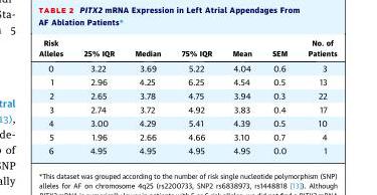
<table><thead><tr><td>Risk Alleles</td><td>25% IQR</td><td>Median</td><td>75% IQR</td><td>Mean</td><td>SEM</td><td>No. of Patients</td></tr></thead><tbody><tr><td>0</td><td>3.22</td><td>3.69</td><td>5.22</td><td>4.04</td><td>0.6</td><td>3</td></tr><tr><td>1</td><td>2.96</td><td>4.25</td><td>6.25</td><td>4.54</td><td>0.5</td><td>13</td></tr><tr><td>2</td><td>2.65</td><td>3.78</td><td>4.75</td><td>3.94</td><td>0.3</td><td>22</td></tr><tr><td>3</td><td>2.74</td><td>3.72</td><td>4.92</td><td>3.83</td><td>0.4</td><td>17</td></tr><tr><td>4</td><td>3.00</td><td>4.29</td><td>5.41</td><td>4.39</td><td>0.5</td><td>10</td></tr><tr><td>5</td><td>1.96</td><td>2.66</td><td>4.66</td><td>3.10</td><td>0.7</td><td>4</td></tr><tr><td>6</td><td>4.95</td><td>4.95</td><td>4.95</td><td>4.95</td><td>0.0</td><td>1</td></tr></tbody></table>